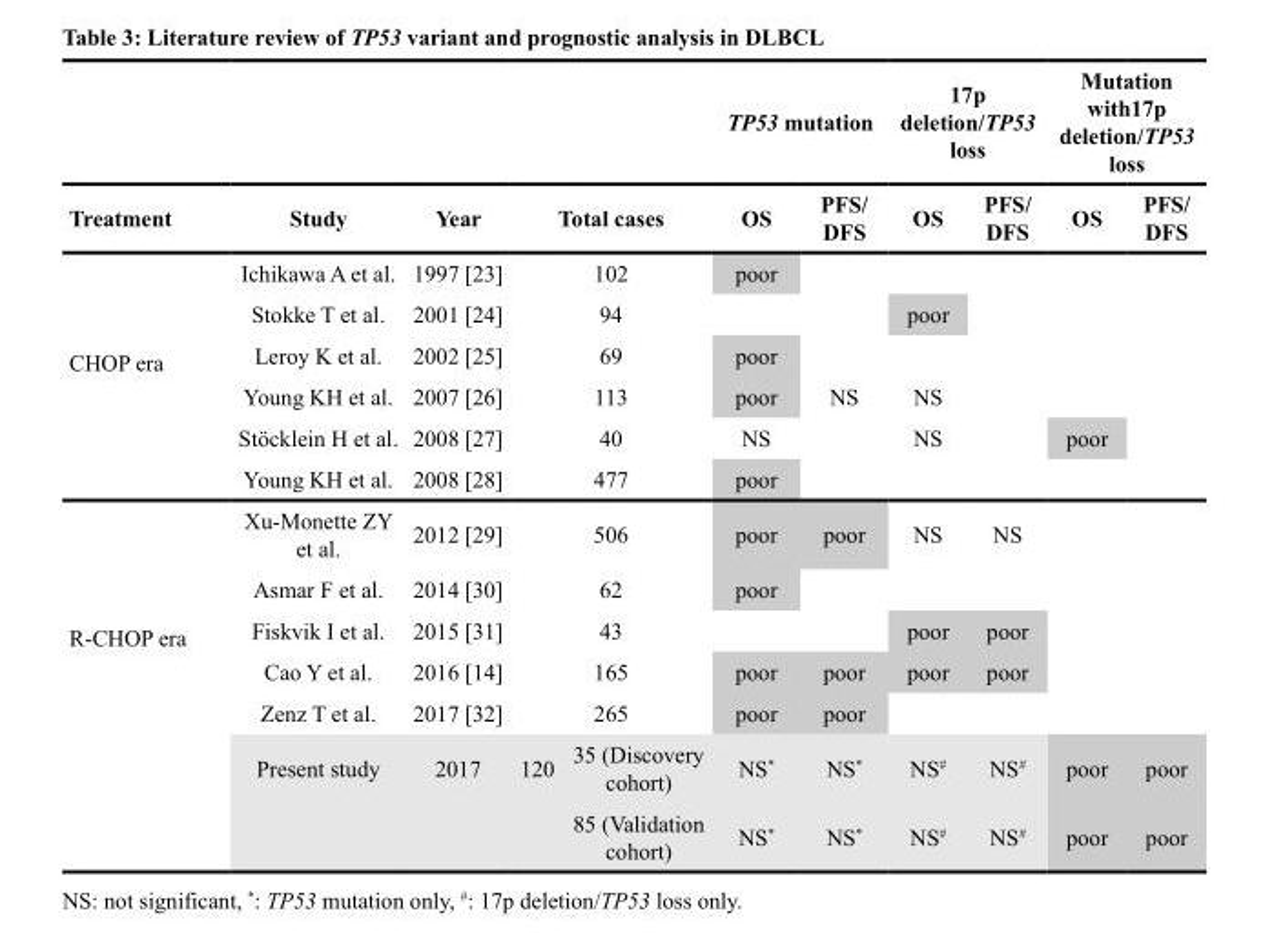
<table><thead><tr><td rowspan="2">Treatment</td><td rowspan="2">Study</td><td rowspan="2">Year</td><td rowspan="2"></td><td rowspan="2">Total cases</td><td colspan="2">TP53 mutation</td><td colspan="2">17p deletion/TP53 loss</td><td colspan="2">Mutation with17p deletion/TP53 loss</td></tr><tr><td>OS</td><td>PFS/ DFS</td><td>OS</td><td>PFS/ DFS</td><td>OS</td><td>PFS/ DFS</td></tr></thead><tbody><tr><td rowspan="6">CHOP era</td><td>Ichikawa A et al.</td><td>1997 [23]</td><td></td><td>102</td><td>poor</td><td></td><td></td><td></td><td></td><td></td></tr><tr><td>Stokke T et al.</td><td>2001 [24]</td><td></td><td>94</td><td></td><td></td><td>poor</td><td></td><td></td><td></td></tr><tr><td>Leroy K et al.</td><td>2002 [25]</td><td></td><td>69</td><td>poor</td><td></td><td></td><td></td><td></td><td></td></tr><tr><td>Young KH et al.</td><td>2007 [26]</td><td></td><td>113</td><td>poor</td><td>NS</td><td>NS</td><td></td><td></td><td></td></tr><tr><td>Stöcklein H et al.</td><td>2008 [27]</td><td></td><td>40</td><td>NS</td><td></td><td>NS</td><td></td><td>poor</td><td></td></tr><tr><td>Young KH et al.</td><td>2008 [28]</td><td></td><td>477</td><td>poor</td><td></td><td></td><td></td><td></td><td></td></tr><tr><td rowspan="7">R-CHOP era</td><td>Xu-Monette ZY et al.</td><td>2012 [29]</td><td></td><td>506</td><td>poor</td><td>poor</td><td>NS</td><td>NS</td><td></td><td></td></tr><tr><td>Asmar F et al.</td><td>2014 [30]</td><td></td><td>62</td><td>poor</td><td></td><td></td><td></td><td></td><td></td></tr><tr><td>Fiskvik I et al.</td><td>2015 [31]</td><td></td><td>43</td><td></td><td></td><td>poor</td><td>poor</td><td></td><td></td></tr><tr><td>Cao Y et al.</td><td>2016 [14]</td><td></td><td>165</td><td>poor</td><td>poor</td><td>poor</td><td>poor</td><td></td><td></td></tr><tr><td>Zenz T et al.</td><td>2017 [32]</td><td></td><td>265</td><td>poor</td><td>poor</td><td></td><td></td><td></td><td></td></tr><tr><td>Present study</td><td>2017</td><td>120</td><td>35 (Discovery cohort)</td><td>NS*</td><td>NS*</td><td>NS<sup>#</sup></td><td>NS<sup>#</sup></td><td>poor</td><td>poor</td></tr><tr><td></td><td></td><td></td><td>85 (Validation cohort)</td><td>NS*</td><td>NS*</td><td>NS<sup>#</sup></td><td>NS<sup>#</sup></td><td>poor</td><td>poor</td></tr></tbody></table>